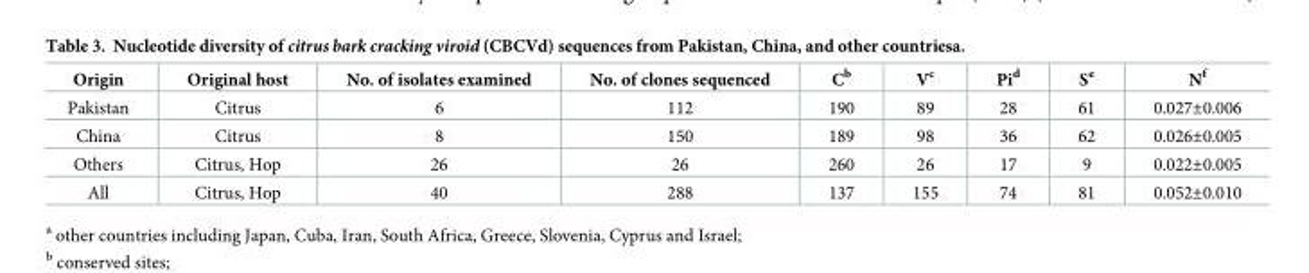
<table><thead><tr><td>Origin</td><td>Original host</td><td>No. of isolates examined</td><td>No. of clones sequenced</td><td>C<sup>b</sup></td><td>V<sup>c</sup></td><td>Pi<sup>d</sup></td><td>S<sup>e</sup></td><td>N<sup>f</sup></td></tr></thead><tbody><tr><td>Pakistan</td><td>Citrus</td><td>6</td><td>112</td><td>190</td><td>89</td><td>28</td><td>61</td><td>0.027±0.006</td></tr><tr><td>China</td><td>Citrus</td><td>8</td><td>150</td><td>189</td><td>98</td><td>36</td><td>62</td><td>0.026±0.005</td></tr><tr><td>Others</td><td>Citrus, Hop</td><td>26</td><td>26</td><td>260</td><td>26</td><td>17</td><td>9</td><td>0.022±0.005</td></tr><tr><td>All</td><td>Citrus, Hop</td><td>40</td><td>288</td><td>137</td><td>155</td><td>74</td><td>81</td><td>0.052±0.010</td></tr></tbody></table>